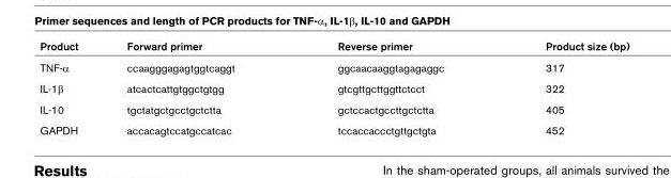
<table><thead><tr><td>Product</td><td>Forward primer</td><td>Reverse primer</td><td>Product size (bp)</td></tr></thead><tbody><tr><td>TNF-α</td><td>ccaagggagagtggtcaggt</td><td>ggcaacaaggtagagaggc</td><td>317</td></tr><tr><td>IL-1β</td><td>atcactcattgtggctgtgg</td><td>gtcgttgcttggttctcct</td><td>322</td></tr><tr><td>IL-10</td><td>tgctatgctgcctgctctta</td><td>gctccactgccttgctctta</td><td>405</td></tr><tr><td>GAPDH</td><td>accacagtccatgccatcac</td><td>tccaccaccctgttgctgta</td><td>452</td></tr></tbody></table>